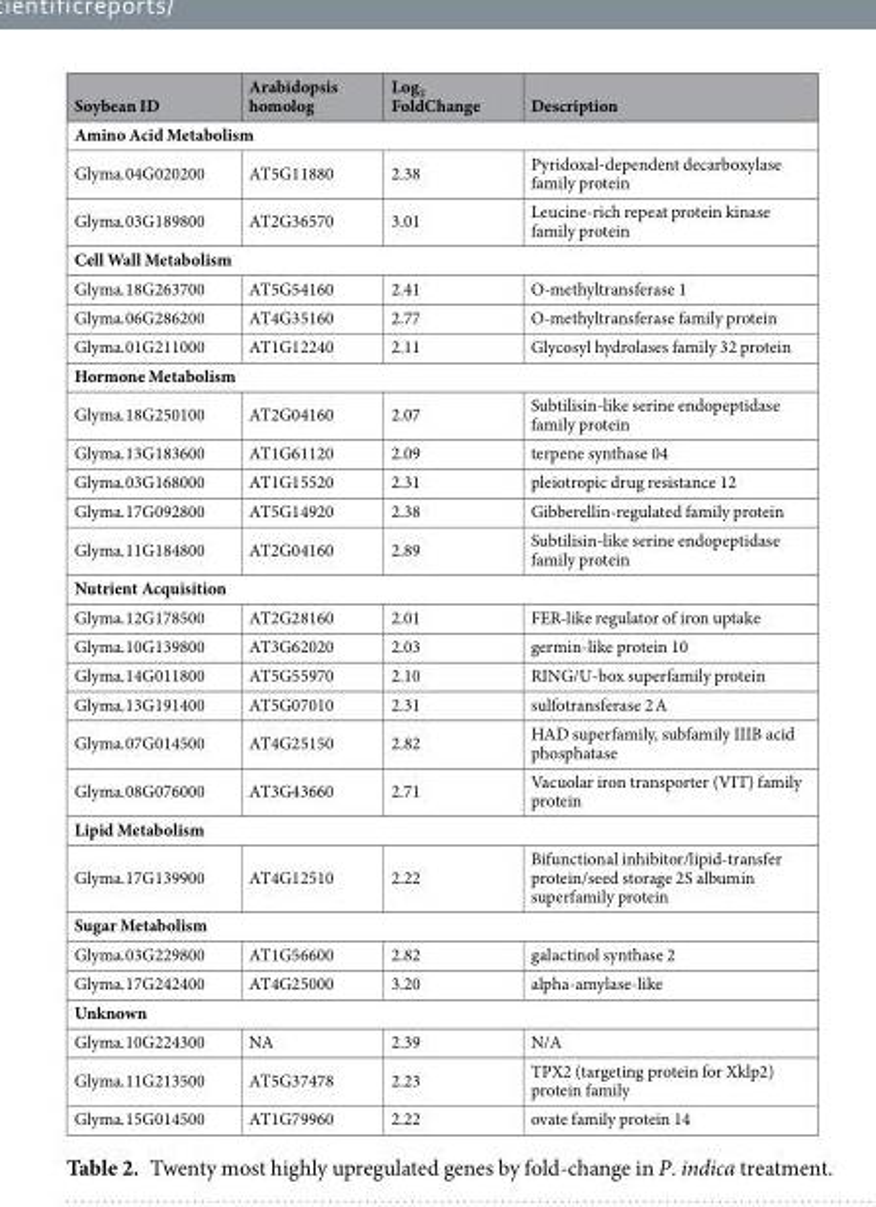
<table><thead><tr><td>Soybean ID</td><td>Arabidopsis homolog</td><td>Log<sub>2</sub> FoldChange</td><td>Description</td></tr></thead><tbody><tr><td colspan="4">Amino Acid Metabolism</td></tr><tr><td>Glyma.04G020200</td><td>AT5G11880</td><td>2.38</td><td>Pyridoxal-dependent decarboxylase family protein</td></tr><tr><td>Glyma.03G189800</td><td>AT2G36570</td><td>3.01</td><td>Leucine-rich repeat protein kinase family protein</td></tr><tr><td colspan="4">Cell Wall Metabolism</td></tr><tr><td>Glyma.18G263700</td><td>AT5G54160</td><td>2.41</td><td>O-methyltransferase 1</td></tr><tr><td>Glyma.06G286200</td><td>AT4G35160</td><td>2.77</td><td>O-methyltransferase family protein</td></tr><tr><td>Glyma.01G211000</td><td>AT1G12240</td><td>2.11</td><td>Glycosyl hydrolases family 32 protein</td></tr><tr><td colspan="4">Hormone Metabolism</td></tr><tr><td>Glyma.18G250100</td><td>AT2G04160</td><td>2.07</td><td>Subtilisin-like serine endopeptidase family protein</td></tr><tr><td>Glyma.13G183600</td><td>AT1G61120</td><td>2.09</td><td>terpene synthase 04</td></tr><tr><td>Glyma.03G168000</td><td>AT1G15520</td><td>2.31</td><td>pleiotropic drug resistance 12</td></tr><tr><td>Glyma.17G092800</td><td>AT5G14920</td><td>2.38</td><td>Gibberellin-regulated family protein</td></tr><tr><td>Glyma.11G184800</td><td>AT2G04160</td><td>2.89</td><td>Subtilisin-like serine endopeptidase family protein</td></tr><tr><td colspan="4">Nutrient Acquisition</td></tr><tr><td>Glyma.12G178500</td><td>AT2G28160</td><td>2.01</td><td>FER-like regulator of iron uptake</td></tr><tr><td>Glyma.10G139800</td><td>AT3G62020</td><td>2.03</td><td>germin-like protein 10</td></tr><tr><td>Glyma.14G011800</td><td>AT5G55970</td><td>2.10</td><td>RING/U-box superfamily protein</td></tr><tr><td>Glyma.13G191400</td><td>AT5G07010</td><td>2.31</td><td>sulfotransferase 2 A</td></tr><tr><td>Glyma.07G014500</td><td>AT4G25150</td><td>2.82</td><td>HAD superfamily, subfamily IIIB acid phosphatase</td></tr><tr><td>Glyma.08G076000</td><td>AT3G43660</td><td>2.71</td><td>Vacuolar iron transporter (VIT) family protein</td></tr><tr><td colspan="4">Lipid Metabolism</td></tr><tr><td>Glyma.17G139900</td><td>AT4G12510</td><td>2.22</td><td>Bifunctional inhibitor/lipid-transfer protein/seed storage 2S albumin superfamily protein</td></tr><tr><td colspan="4">Sugar Metabolism</td></tr><tr><td>Glyma.03G229800</td><td>AT1G56600</td><td>2.82</td><td>galactinol synthase 2</td></tr><tr><td>Glyma.17G242400</td><td>AT4G25000</td><td>3.20</td><td>alpha-amylase-like</td></tr><tr><td colspan="4">Unknown</td></tr><tr><td>Glyma.10G224300</td><td>NA</td><td>2.39</td><td>N/A</td></tr><tr><td>Glyma.11G213500</td><td>AT5G37478</td><td>2.23</td><td>TPX2 (targeting protein for Xklp2) protein family</td></tr><tr><td>Glyma.15G014500</td><td>AT1G79960</td><td>2.22</td><td>ovate family protein 14</td></tr></tbody></table>